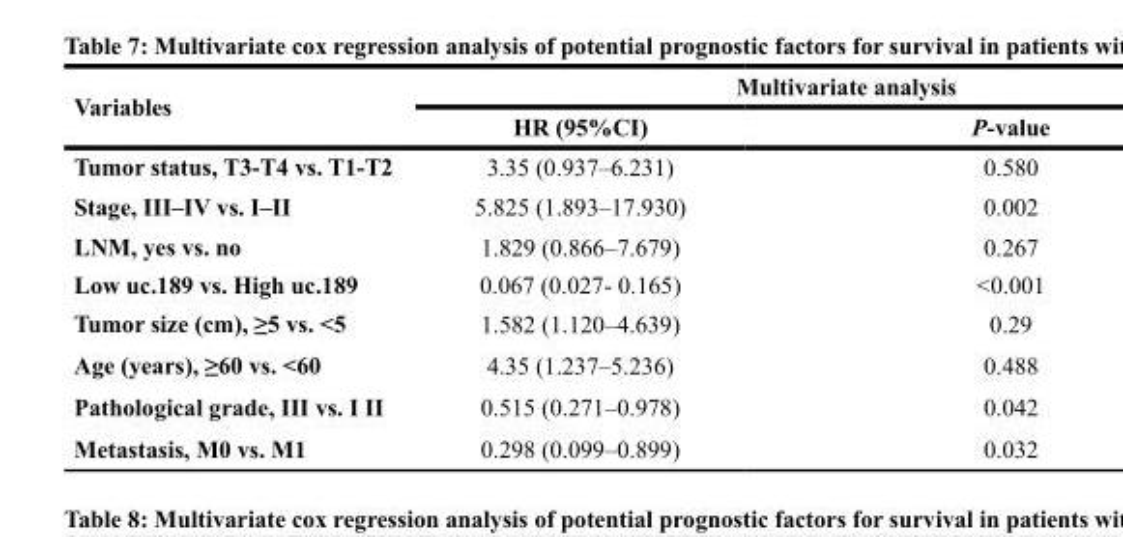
<table><thead><tr><td rowspan="2">Variables</td><td colspan="2">Multivariate analysis</td></tr><tr><td>HR (95%CI)</td><td>P-value</td></tr></thead><tbody><tr><td>Tumor status, T3-T4 vs. T1-T2</td><td>3.35 (0.937–6.231)</td><td>0.580</td></tr><tr><td>Stage, III–IV vs. I–II</td><td>5.825 (1.893–17.930)</td><td>0.002</td></tr><tr><td>LNM, yes vs. no</td><td>1.829 (0.866–7.679)</td><td>0.267</td></tr><tr><td>Low uc.189 vs. High uc.189</td><td>0.067 (0.027- 0.165)</td><td>&lt;0.001</td></tr><tr><td>Tumor size (cm), ≥5 vs. &lt;5</td><td>1.582 (1.120–4.639)</td><td>0.29</td></tr><tr><td>Age (years), ≥60 vs. &lt;60</td><td>4.35 (1.237–5.236)</td><td>0.488</td></tr><tr><td>Pathological grade, III vs. I II</td><td>0.515 (0.271–0.978)</td><td>0.042</td></tr><tr><td>Metastasis, M0 vs. M1</td><td>0.298 (0.099–0.899)</td><td>0.032</td></tr></tbody></table>